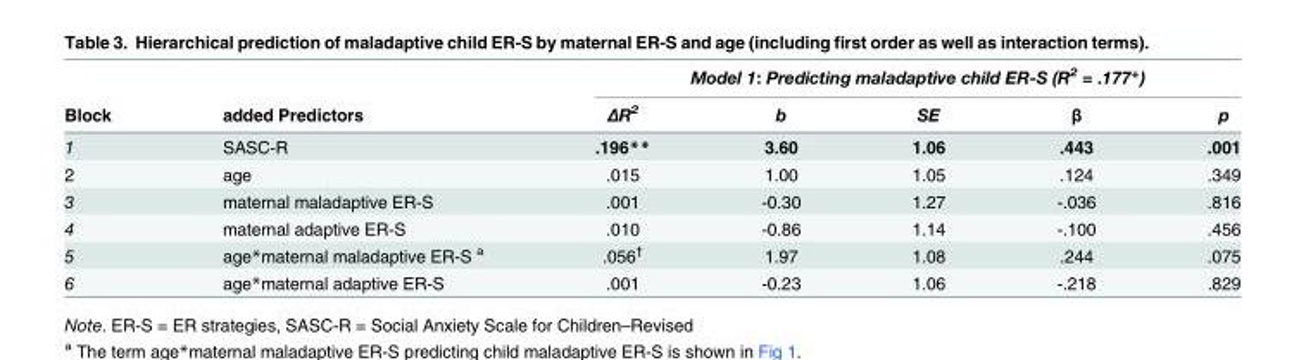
<table><thead><tr><td rowspan="2">Block</td><td rowspan="2">added Predictors</td><td colspan="5">Model 1: Predicting maladaptive child ER-S (R<sup>2</sup> = .177*)</td></tr><tr><td>ΔR<sup>2</sup></td><td>b</td><td>SE</td><td>β</td><td>p</td></tr></thead><tbody><tr><td>1</td><td>SASC-R</td><td>.196**</td><td>3.60</td><td>1.06</td><td>.443</td><td>.001</td></tr><tr><td>2</td><td>age</td><td>.015</td><td>1.00</td><td>1.05</td><td>.124</td><td>.349</td></tr><tr><td>3</td><td>maternal maladaptive ER-S</td><td>.001</td><td>-0.30</td><td>1.27</td><td>-.036</td><td>.816</td></tr><tr><td>4</td><td>maternal adaptive ER-S</td><td>.010</td><td>-0.86</td><td>1.14</td><td>-.100</td><td>.456</td></tr><tr><td>5</td><td>age*maternal maladaptive ER-S <sup>a</sup></td><td>.056<sup>†</sup></td><td>1.97</td><td>1.08</td><td>.244</td><td>.075</td></tr><tr><td>6</td><td>age*maternal adaptive ER-S</td><td>.001</td><td>-0.23</td><td>1.06</td><td>-.218</td><td>.829</td></tr></tbody></table>